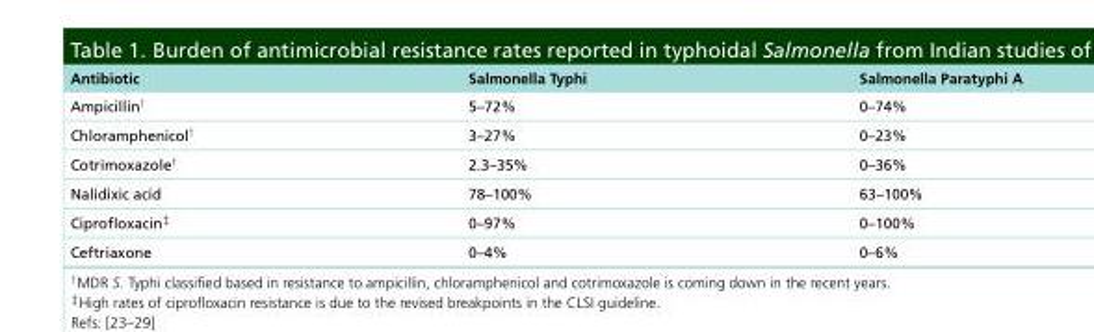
<table><thead><tr><td>Antibiotic</td><td>Salmonella Typhi</td><td>Salmonella Paratyphi A</td></tr></thead><tbody><tr><td>Ampicillin<sup>†</sup></td><td>5–72%</td><td>0–74%</td></tr><tr><td>Chloramphenicol<sup>†</sup></td><td>3–27%</td><td>0–23%</td></tr><tr><td>Cotrimoxazole<sup>†</sup></td><td>2.3–35%</td><td>0–36%</td></tr><tr><td>Nalidixic acid</td><td>78–100%</td><td>63–100%</td></tr><tr><td>Ciprofloxacin<sup>‡</sup></td><td>0–97%</td><td>0–100%</td></tr><tr><td>Ceftriaxone</td><td>0–4%</td><td>0–6%</td></tr></tbody></table>